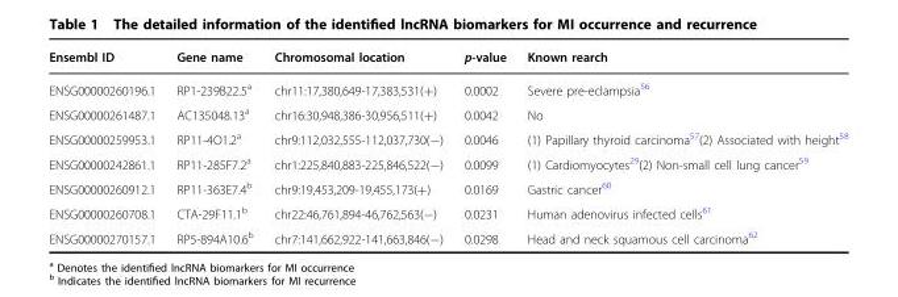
<table><thead><tr><td>Ensembl ID</td><td>Gene name</td><td>Chromosomal location</td><td>p-value</td><td>Known rearch</td></tr></thead><tbody><tr><td>ENSG00000260196.1</td><td>RP1-239B22.5<sup>a</sup></td><td>chr11:17,380,649-17,383,531(+)</td><td>0.0002</td><td>Severe pre-eclampsia<sup>56</sup></td></tr><tr><td>ENSG00000261487.1</td><td>AC135048.13<sup>a</sup></td><td>chr16:30,948,386-30,956,511(+)</td><td>0.0042</td><td>No</td></tr><tr><td>ENSG00000259953.1</td><td>RP11-4O1.2<sup>a</sup></td><td>chr9:112,032,555-112,037,730(−)</td><td>0.0046</td><td>(1) Papillary thyroid carcinoma<sup>57</sup>(2) Associated with height<sup>58</sup></td></tr><tr><td>ENSG00000242861.1</td><td>RP11-285F7.2<sup>a</sup></td><td>chr1:225,840,883-225,846,522(−)</td><td>0.0099</td><td>(1) Cardiomyocytes<sup>29</sup>(2) Non-small cell lung cancer<sup>59</sup></td></tr><tr><td>ENSG00000260912.1</td><td>RP11-363E7.4<sup>b</sup></td><td>chr9:19,453,209-19,455,173(+)</td><td>0.0169</td><td>Gastric cancer<sup>60</sup></td></tr><tr><td>ENSG00000260708.1</td><td>CTA-29F11.1<sup>b</sup></td><td>chr22:46,761,894-46,762,563(−)</td><td>0.0231</td><td>Human adenovirus infected cells<sup>61</sup></td></tr><tr><td>ENSG00000270157.1</td><td>RP5-894A10.6<sup>b</sup></td><td>chr7:141,662,922-141,663,846(−)</td><td>0.0298</td><td>Head and neck squamous cell carcinoma<sup>62</sup></td></tr></tbody></table>